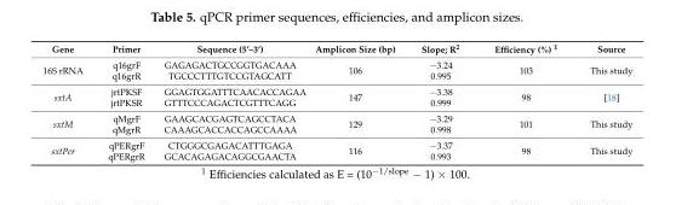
<table><thead><tr><td>Gene</td><td>Primer</td><td>Sequence (5’–3’)</td><td>Amplicon Size (bp)</td><td>Slope; R<sup>2</sup></td><td>Efficiency (%) <sup>1</sup></td><td>Source</td></tr></thead><tbody><tr><td>16S rRNA</td><td>q16grF q16grR</td><td>GAGAGACTGCCGGTGACAAA TGCCCTTTGTCCGTAGCATT</td><td>106</td><td>−3.24 0.995</td><td>103</td><td>This study</td></tr><tr><td>sxtA</td><td>jrtPKSF jrtPKSR</td><td>GGAGTGGATTTCAACACCAGAA GTTTCCCAGACTCGTTTCAGG</td><td>147</td><td>−3.38 0.999</td><td>98</td><td>[18]</td></tr><tr><td>sxtM</td><td>qMgrF qMgrR</td><td>GAAGCACGAGTCAGCCTACA CAAAGCACCACCAGCCAAAA</td><td>129</td><td>−3.29 0.998</td><td>101</td><td>This study</td></tr><tr><td>sxtPer</td><td>qPERgrF qPERgrR</td><td>CTGGGCGAGACATTTGAGA GCACAGAGACAGGCGAACTA</td><td>116</td><td>−3.37 0.993</td><td>98</td><td>This study</td></tr></tbody></table>